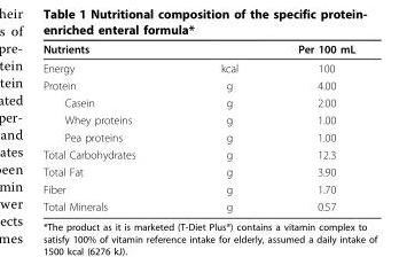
<table><thead><tr><td>Nutrients</td><td></td><td>Per 100 mL</td></tr></thead><tbody><tr><td>Energy</td><td>kcal</td><td>100</td></tr><tr><td>Protein</td><td>g</td><td>4.00</td></tr><tr><td>Casein</td><td>g</td><td>2.00</td></tr><tr><td>Whey proteins</td><td>g</td><td>1.00</td></tr><tr><td>Pea proteins</td><td>g</td><td>1.00</td></tr><tr><td>Total Carbohydrates</td><td>g</td><td>12.3</td></tr><tr><td>Total Fat</td><td>g</td><td>3.90</td></tr><tr><td>Fiber</td><td>g</td><td>1.70</td></tr><tr><td>Total Minerals</td><td>g</td><td>0.57</td></tr></tbody></table>